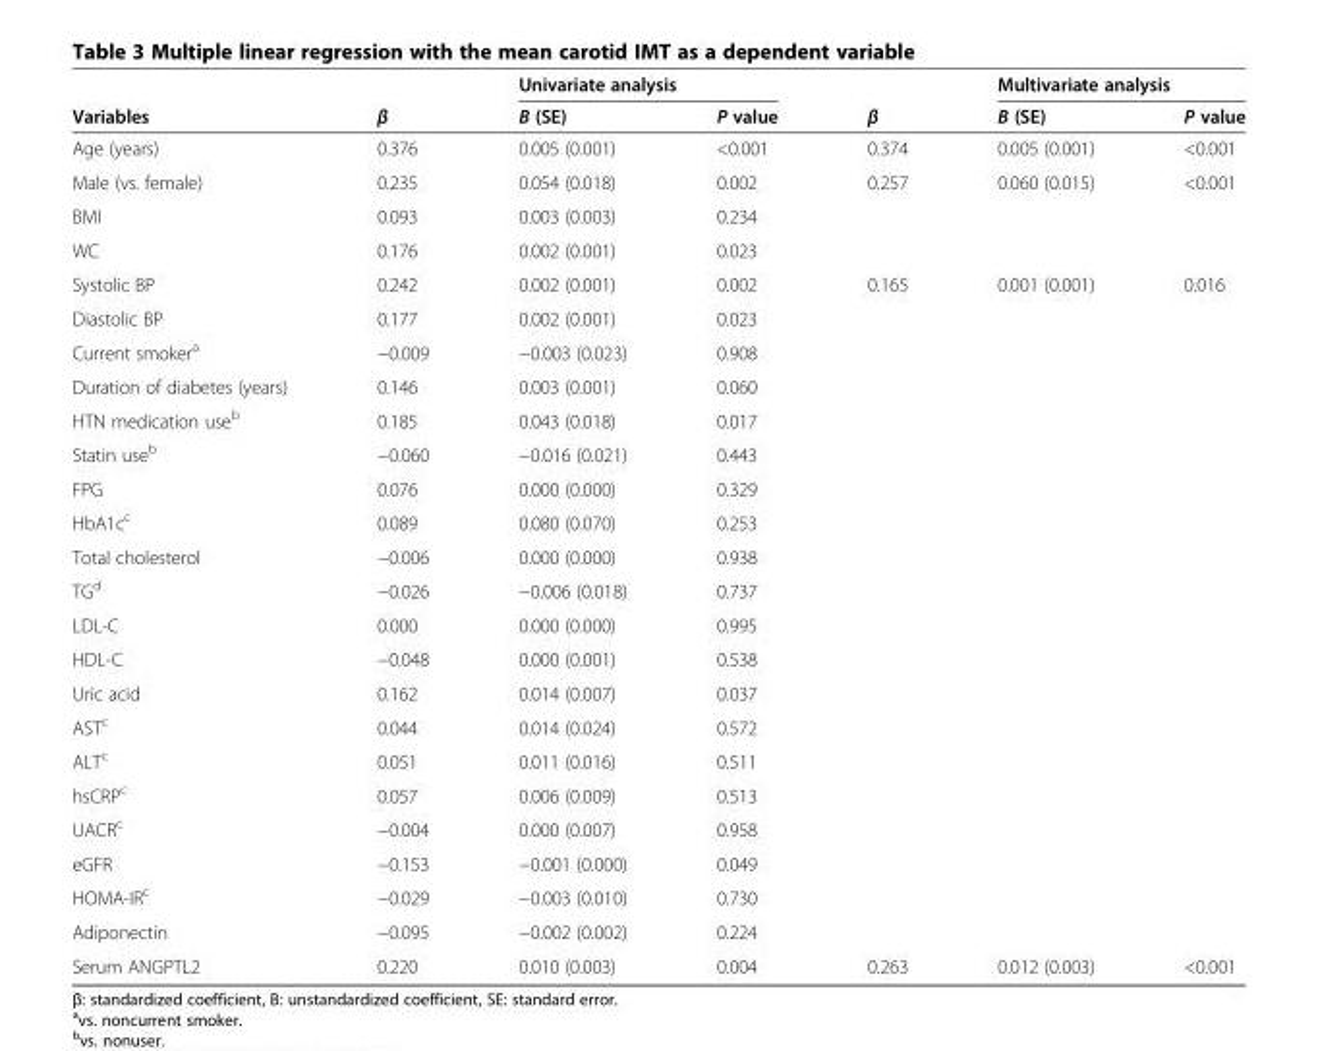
<table><thead><tr><td rowspan="2">Variables</td><td rowspan="2">β</td><td colspan="2">Univariate analysis</td><td rowspan="2">β</td><td colspan="2">Multivariate analysis</td></tr><tr><td>B (SE)</td><td>P value</td><td>B (SE)</td><td>P value</td></tr></thead><tbody><tr><td>Age (years)</td><td>0.376</td><td>0.005 (0.001)</td><td>&lt;0.001</td><td>0.374</td><td>0.005 (0.001)</td><td>&lt;0.001</td></tr><tr><td>Male (vs. female)</td><td>0.235</td><td>0.054 (0.018)</td><td>0.002</td><td>0.257</td><td>0.060 (0.015)</td><td>&lt;0.001</td></tr><tr><td>BMI</td><td>0.093</td><td>0.003 (0.003)</td><td>0.234</td><td></td><td></td><td></td></tr><tr><td>WC</td><td>0.176</td><td>0.002 (0.001)</td><td>0.023</td><td></td><td></td><td></td></tr><tr><td>Systolic BP</td><td>0.242</td><td>0.002 (0.001)</td><td>0.002</td><td>0.165</td><td>0.001 (0.001)</td><td>0.016</td></tr><tr><td>Diastolic BP</td><td>0.177</td><td>0.002 (0.001)</td><td>0.023</td><td></td><td></td><td></td></tr><tr><td>Current smoker<sup>a</sup></td><td>−0.009</td><td>−0.003 (0.023)</td><td>0.908</td><td></td><td></td><td></td></tr><tr><td>Duration of diabetes (years)</td><td>0.146</td><td>0.003 (0.001)</td><td>0.060</td><td></td><td></td><td></td></tr><tr><td>HTN medication use<sup>b</sup></td><td>0.185</td><td>0.043 (0.018)</td><td>0.017</td><td></td><td></td><td></td></tr><tr><td>Statin use<sup>b</sup></td><td>−0.060</td><td>−0.016 (0.021)</td><td>0.443</td><td></td><td></td><td></td></tr><tr><td>FPG</td><td>0.076</td><td>0.000 (0.000)</td><td>0.329</td><td></td><td></td><td></td></tr><tr><td>HbA1c<sup>c</sup></td><td>0.089</td><td>0.080 (0.070)</td><td>0.253</td><td></td><td></td><td></td></tr><tr><td>Total cholesterol</td><td>−0.006</td><td>0.000 (0.000)</td><td>0.938</td><td></td><td></td><td></td></tr><tr><td>TG<sup>d</sup></td><td>−0.026</td><td>−0.006 (0.018)</td><td>0.737</td><td></td><td></td><td></td></tr><tr><td>LDL-C</td><td>0.000</td><td>0.000 (0.000)</td><td>0.995</td><td></td><td></td><td></td></tr><tr><td>HDL-C</td><td>−0.048</td><td>0.000 (0.001)</td><td>0.538</td><td></td><td></td><td></td></tr><tr><td>Uric acid</td><td>0.162</td><td>0.014 (0.007)</td><td>0.037</td><td></td><td></td><td></td></tr><tr><td>AST<sup>c</sup></td><td>0.044</td><td>0.014 (0.024)</td><td>0.572</td><td></td><td></td><td></td></tr><tr><td>ALT<sup>c</sup></td><td>0.051</td><td>0.011 (0.016)</td><td>0.511</td><td></td><td></td><td></td></tr><tr><td>hsCRP<sup>c</sup></td><td>0.057</td><td>0.006 (0.009)</td><td>0.513</td><td></td><td></td><td></td></tr><tr><td>UACR<sup>c</sup></td><td>−0.004</td><td>0.000 (0.007)</td><td>0.958</td><td></td><td></td><td></td></tr><tr><td>eGFR</td><td>−0.153</td><td>−0.001 (0.000)</td><td>0.049</td><td></td><td></td><td></td></tr><tr><td>HOMA-IR<sup>c</sup></td><td>−0.029</td><td>−0.003 (0.010)</td><td>0.730</td><td></td><td></td><td></td></tr><tr><td>Adiponectin</td><td>−0.095</td><td>−0.002 (0.002)</td><td>0.224</td><td></td><td></td><td></td></tr><tr><td>Serum ANGPTL2</td><td>0.220</td><td>0.010 (0.003)</td><td>0.004</td><td>0.263</td><td>0.012 (0.003)</td><td>&lt;0.001</td></tr></tbody></table>